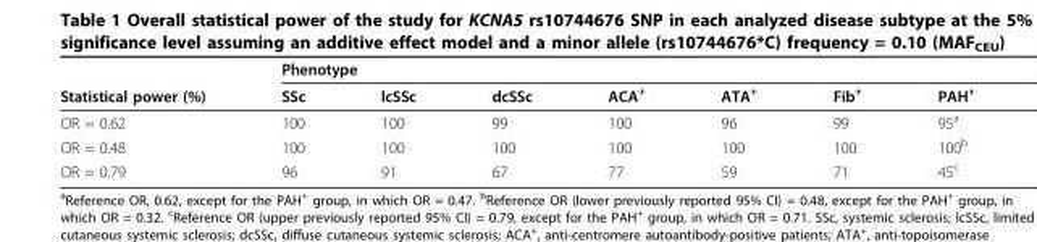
<table><thead><tr><td rowspan="2">Statistical power (%)</td><td colspan="7">Phenotype</td></tr><tr><td>SSc</td><td>lcSSc</td><td>dcSSc</td><td>ACA<sup>+</sup></td><td>ATA<sup>+</sup></td><td>Fib<sup>+</sup></td><td>PAH<sup>+</sup></td></tr></thead><tbody><tr><td>OR = 0.62</td><td>100</td><td>100</td><td>99</td><td>100</td><td>96</td><td>99</td><td>95<sup>a</sup></td></tr><tr><td>OR = 0.48</td><td>100</td><td>100</td><td>100</td><td>100</td><td>100</td><td>100</td><td>100<sup>b</sup></td></tr><tr><td>OR = 0.79</td><td>96</td><td>91</td><td>67</td><td>77</td><td>59</td><td>71</td><td>45<sup>c</sup></td></tr></tbody></table>